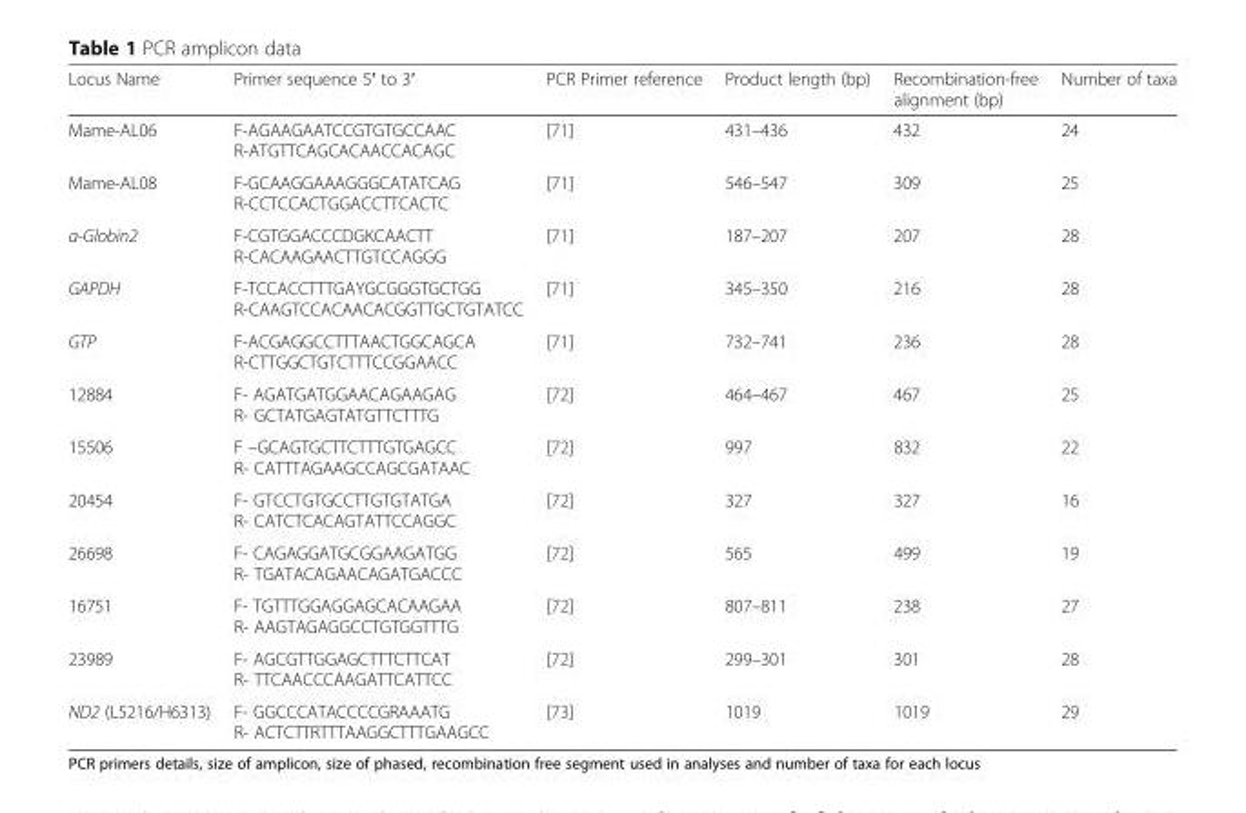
<table><thead><tr><td>Locus Name</td><td>Primer sequence 5′ to 3′</td><td>PCR Primer reference</td><td>Product length (bp)</td><td>Recombination-free alignment (bp)</td><td>Number of taxa</td></tr></thead><tbody><tr><td>Mame-AL06</td><td>F-AGAAGAATCCGTGTGCCAAC R-ATGTTCAGCACAACCACAGC</td><td>[71]</td><td>431–436</td><td>432</td><td>24</td></tr><tr><td>Mame-AL08</td><td>F-GCAAGGAAAGGGCATATCAG R-CCTCCACTGGACCTTCACTC</td><td>[71]</td><td>546–547</td><td>309</td><td>25</td></tr><tr><td>α-Globin2</td><td>F-CGTGGACCCDGKCAACTT R-CACAAGAACTTGTCCAGGG</td><td>[71]</td><td>187–207</td><td>207</td><td>28</td></tr><tr><td>GAPDH</td><td>F-TCCACCTTTGAYGCGGGTGCTGG R-CAAGTCCACAACACGGTTGCTGTATCC</td><td>[71]</td><td>345–350</td><td>216</td><td>28</td></tr><tr><td>GTP</td><td>F-ACGAGGCCTTTAACTGGCAGCA R-CTTGGCTGTCTTTCCGGAACC</td><td>[71]</td><td>732–741</td><td>236</td><td>28</td></tr><tr><td>12884</td><td>F- AGATGATGGAACAGAAGAG R- GCTATGAGTATGTTCTTTG</td><td>[72]</td><td>464–467</td><td>467</td><td>25</td></tr><tr><td>15506</td><td>F –GCAGTGCTTCTTTGTGAGCC R- CATTTAGAAGCCAGCGATAAC</td><td>[72]</td><td>997</td><td>832</td><td>22</td></tr><tr><td>20454</td><td>F- GTCCTGTGCCTTGTGTATGA R- CATCTCACAGTATTCCAGGC</td><td>[72]</td><td>327</td><td>327</td><td>16</td></tr><tr><td>26698</td><td>F- CAGAGGATGCGGAAGATGG R- TGATACAGAACAGATGACCC</td><td>[72]</td><td>565</td><td>499</td><td>19</td></tr><tr><td>16751</td><td>F- TGTTTGGAGGAGCACAAGAA R- AAGTAGAGGCCTGTGGTTTG</td><td>[72]</td><td>807–811</td><td>238</td><td>27</td></tr><tr><td>23989</td><td>F- AGCGTTGGAGCTTTCTTCAT R- TTCAACCCAAGATTCATTCC</td><td>[72]</td><td>299–301</td><td>301</td><td>28</td></tr><tr><td>ND2 (L5216/H6313)</td><td>F- GGCCCATACCCCGRAAATG R- ACTCTTRTTTAAGGCTTTGAAGCC</td><td>[73]</td><td>1019</td><td>1019</td><td>29</td></tr></tbody></table>